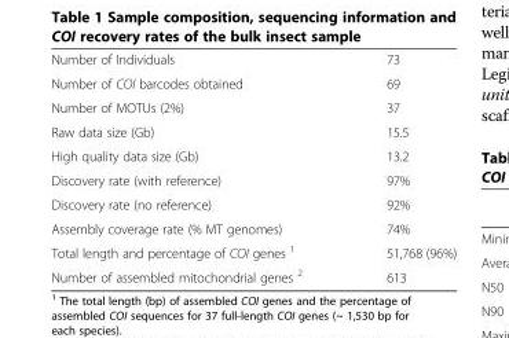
<table><tbody><tr><td>Number of Individuals</td><td>73</td></tr><tr><td>Number of COI barcodes obtained</td><td>69</td></tr><tr><td>Number of MOTUs (2%)</td><td>37</td></tr><tr><td>Raw data size (Gb)</td><td>15.5</td></tr><tr><td>High quality data size (Gb)</td><td>13.2</td></tr><tr><td>Discovery rate (with reference)</td><td>97%</td></tr><tr><td>Discovery rate (no reference)</td><td>92%</td></tr><tr><td>Assembly coverage rate (% MT genomes)</td><td>74%</td></tr><tr><td>Total length and percentage of COI genes <sup>1</sup></td><td>51,768 (96%)</td></tr><tr><td>Number of assembled mitochondrial genes <sup>2</sup></td><td>613</td></tr></tbody></table>